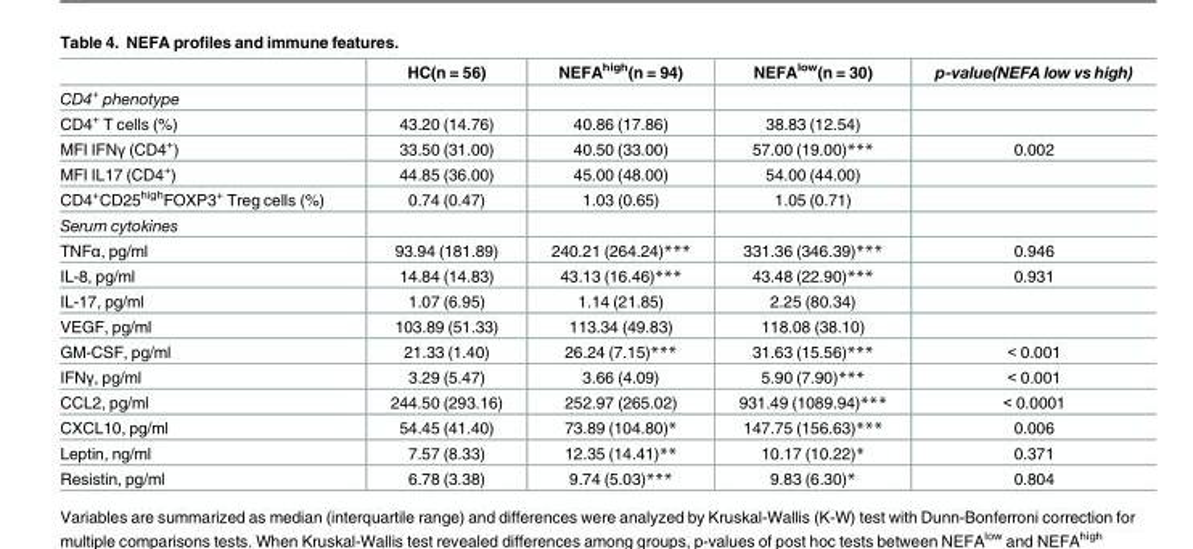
<table><thead><tr><td></td><td>HC(n = 56)</td><td>NEFA<sup>high</sup>(n = 94)</td><td>NEFA<sup>low</sup>(n = 30)</td><td>p-value(NEFA low vs high)</td></tr></thead><tbody><tr><td colspan="5">CD4<sup>+</sup> phenotype</td></tr><tr><td>CD4<sup>+</sup> T cells (%)</td><td>43.20 (14.76)</td><td>40.86 (17.86)</td><td>38.83 (12.54)</td><td></td></tr><tr><td>MFI IFNγ (CD4<sup>+</sup>)</td><td>33.50 (31.00)</td><td>40.50 (33.00)</td><td>57.00 (19.00)***</td><td>0.002</td></tr><tr><td>MFI IL17 (CD4<sup>+</sup>)</td><td>44.85 (36.00)</td><td>45.00 (48.00)</td><td>54.00 (44.00)</td><td></td></tr><tr><td>CD4<sup>+</sup>CD25<sup>high</sup>FOXP3<sup>+</sup> Treg cells (%)</td><td>0.74 (0.47)</td><td>1.03 (0.65)</td><td>1.05 (0.71)</td><td></td></tr><tr><td colspan="5">Serum cytokines</td></tr><tr><td>TNFα, pg/ml</td><td>93.94 (181.89)</td><td>240.21 (264.24)***</td><td>331.36 (346.39)***</td><td>0.946</td></tr><tr><td>IL-8, pg/ml</td><td>14.84 (14.83)</td><td>43.13 (16.46)***</td><td>43.48 (22.90)***</td><td>0.931</td></tr><tr><td>IL-17, pg/ml</td><td>1.07 (6.95)</td><td>1.14 (21.85)</td><td>2.25 (80.34)</td><td></td></tr><tr><td>VEGF, pg/ml</td><td>103.89 (51.33)</td><td>113.34 (49.83)</td><td>118.08 (38.10)</td><td></td></tr><tr><td>GM-CSF, pg/ml</td><td>21.33 (1.40)</td><td>26.24 (7.15)***</td><td>31.63 (15.56)***</td><td>&lt; 0.001</td></tr><tr><td>IFNγ, pg/ml</td><td>3.29 (5.47)</td><td>3.66 (4.09)</td><td>5.90 (7.90)***</td><td>&lt; 0.001</td></tr><tr><td>CCL2, pg/ml</td><td>244.50 (293.16)</td><td>252.97 (265.02)</td><td>931.49 (1089.94)***</td><td>&lt; 0.0001</td></tr><tr><td>CXCL10, pg/ml</td><td>54.45 (41.40)</td><td>73.89 (104.80)*</td><td>147.75 (156.63)***</td><td>0.006</td></tr><tr><td>Leptin, ng/ml</td><td>7.57 (8.33)</td><td>12.35 (14.41)**</td><td>10.17 (10.22)*</td><td>0.371</td></tr><tr><td>Resistin, pg/ml</td><td>6.78 (3.38)</td><td>9.74 (5.03)***</td><td>9.83 (6.30)*</td><td>0.804</td></tr></tbody></table>